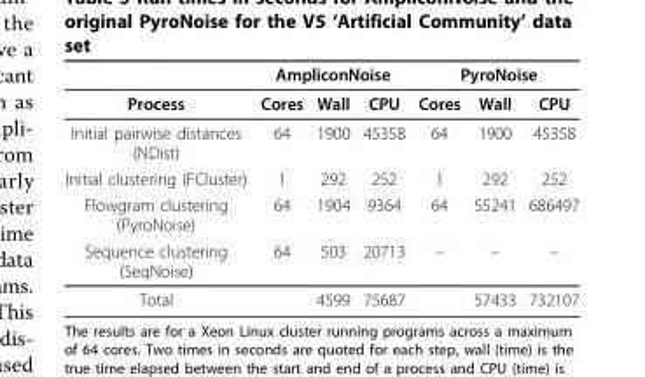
<table><thead><tr><td rowspan="2">Process</td><td colspan="3">AmpliconNoise</td><td colspan="3">PyroNoise</td></tr><tr><td>Cores</td><td>Wall</td><td>CPU</td><td>Cores</td><td>Wall</td><td>CPU</td></tr></thead><tbody><tr><td>Initial pairwise distances (NDist)</td><td>64</td><td>1900</td><td>45358</td><td>64</td><td>1900</td><td>45358</td></tr><tr><td>Initial clustering (FCluster)</td><td>1</td><td>292</td><td>252</td><td>1</td><td>292</td><td>252</td></tr><tr><td>Flowgram clustering (PyroNoise)</td><td>64</td><td>1904</td><td>9364</td><td>64</td><td>55241</td><td>686497</td></tr><tr><td>Sequence clustering (SeqNoise)</td><td>64</td><td>503</td><td>20713</td><td>–</td><td>–</td><td>–</td></tr><tr><td>Total</td><td></td><td>4599</td><td>75687</td><td></td><td>57433</td><td>732107</td></tr></tbody></table>